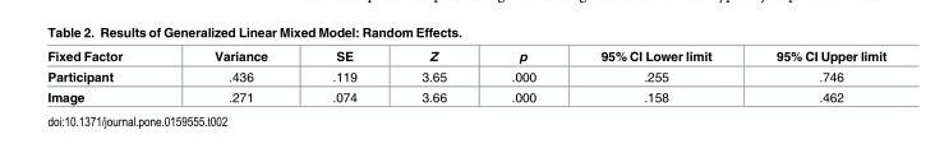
<table><thead><tr><td>Fixed Factor</td><td>Variance</td><td>SE</td><td>Z</td><td>p</td><td>95% CI Lower limit</td><td>95% CI Upper limit</td></tr></thead><tbody><tr><td>Participant</td><td>.436</td><td>.119</td><td>3.65</td><td>.000</td><td>.255</td><td>.746</td></tr><tr><td>Image</td><td>.271</td><td>.074</td><td>3.66</td><td>.000</td><td>.158</td><td>.462</td></tr></tbody></table>